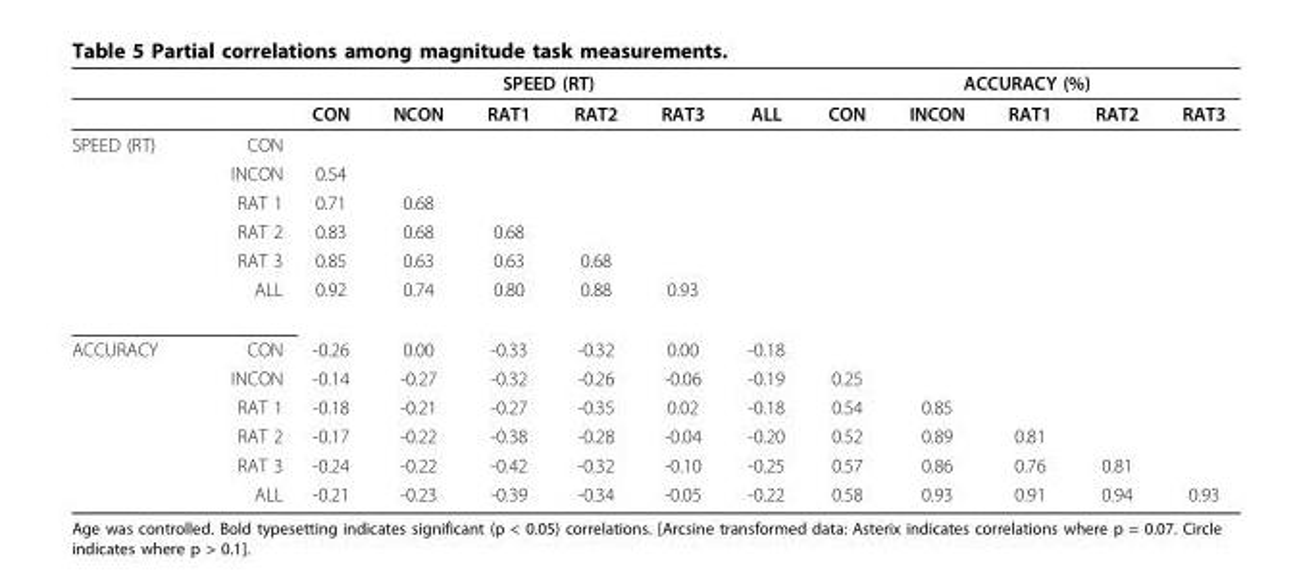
<table><thead><tr><td rowspan="2"></td><td rowspan="2"></td><td colspan="6">SPEED (RT)</td><td colspan="5">ACCURACY (%)</td></tr><tr><td>CON</td><td>NCON</td><td>RAT1</td><td>RAT2</td><td>RAT3</td><td>ALL</td><td>CON</td><td>INCON</td><td>RAT1</td><td>RAT2</td><td>RAT3</td></tr></thead><tbody><tr><td rowspan="6">SPEED (RT)</td><td>CON</td><td></td><td></td><td></td><td></td><td></td><td></td><td></td><td></td><td></td><td></td><td></td></tr><tr><td>INCON</td><td>0.54</td><td></td><td></td><td></td><td></td><td></td><td></td><td></td><td></td><td></td><td></td></tr><tr><td>RAT 1</td><td>0.71</td><td>0.68</td><td></td><td></td><td></td><td></td><td></td><td></td><td></td><td></td><td></td></tr><tr><td>RAT 2</td><td>0.83</td><td>0.68</td><td>0.68</td><td></td><td></td><td></td><td></td><td></td><td></td><td></td><td></td></tr><tr><td>RAT 3</td><td>0.85</td><td>0.63</td><td>0.63</td><td>0.68</td><td></td><td></td><td></td><td></td><td></td><td></td><td></td></tr><tr><td>ALL</td><td>0.92</td><td>0.74</td><td>0.80</td><td>0.88</td><td>0.93</td><td></td><td></td><td></td><td></td><td></td><td></td></tr><tr><td rowspan="6">ACCURACY</td><td>CON</td><td>-0.26</td><td>0.00</td><td>-0.33</td><td>-0.32</td><td>0.00</td><td>-0.18</td><td></td><td></td><td></td><td></td><td></td></tr><tr><td>INCON</td><td>-0.14</td><td>-0.27</td><td>-0.32</td><td>-0.26</td><td>-0.06</td><td>-0.19</td><td>0.25</td><td></td><td></td><td></td><td></td></tr><tr><td>RAT 1</td><td>-0.18</td><td>-0.21</td><td>-0.27</td><td>-0.35</td><td>0.02</td><td>-0.18</td><td>0.54</td><td>0.85</td><td></td><td></td><td></td></tr><tr><td>RAT 2</td><td>-0.17</td><td>-0.22</td><td>-0.38</td><td>-0.28</td><td>-0.04</td><td>-0.20</td><td>0.52</td><td>0.89</td><td>0.81</td><td></td><td></td></tr><tr><td>RAT 3</td><td>-0.24</td><td>-0.22</td><td>-0.42</td><td>-0.32</td><td>-0.10</td><td>-0.25</td><td>0.57</td><td>0.86</td><td>0.76</td><td>0.81</td><td></td></tr><tr><td>ALL</td><td>-0.21</td><td>-0.23</td><td>-0.39</td><td>-0.34</td><td>-0.05</td><td>-0.22</td><td>0.58</td><td>0.93</td><td>0.91</td><td>0.94</td><td>0.93</td></tr></tbody></table>